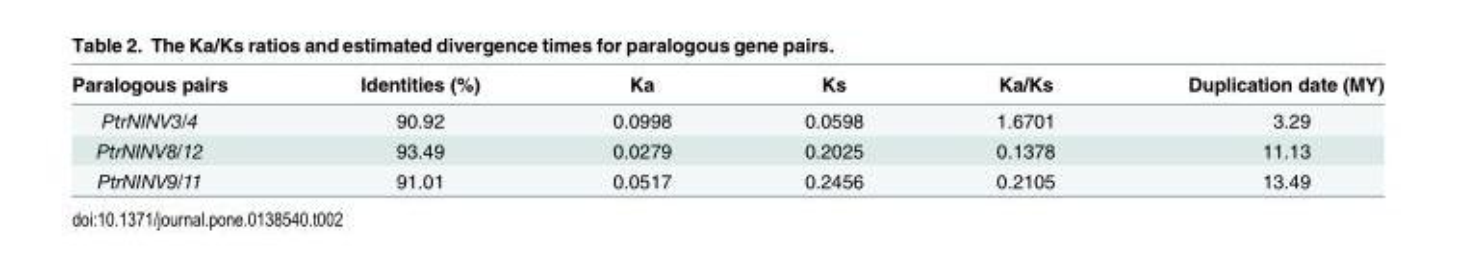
<table><thead><tr><td>Paralogous pairs</td><td>Identities (%)</td><td>Ka</td><td>Ks</td><td>Ka/Ks</td><td>Duplication date (MY)</td></tr></thead><tbody><tr><td>PtrNINV3/4</td><td>90.92</td><td>0.0998</td><td>0.0598</td><td>1.6701</td><td>3.29</td></tr><tr><td>PtrNINV8/12</td><td>93.49</td><td>0.0279</td><td>0.2025</td><td>0.1378</td><td>11.13</td></tr><tr><td>PtrNINV9/11</td><td>91.01</td><td>0.0517</td><td>0.2456</td><td>0.2105</td><td>13.49</td></tr></tbody></table>